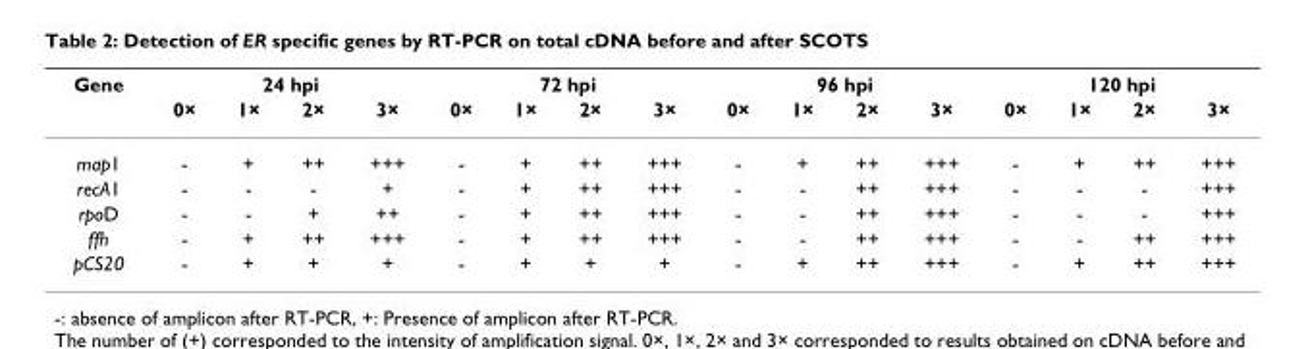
<table><thead><tr><td rowspan="2">Gene</td><td colspan="4">24 hpi</td><td colspan="4">72 hpi</td><td colspan="4">96 hpi</td><td colspan="4">120 hpi</td></tr><tr><td>0×</td><td>1×</td><td>2×</td><td>3×</td><td>0×</td><td>1×</td><td>2×</td><td>3×</td><td>0×</td><td>1×</td><td>2×</td><td>3×</td><td>0×</td><td>1×</td><td>2×</td><td>3×</td></tr></thead><tbody><tr><td>map1</td><td>-</td><td>+</td><td>++</td><td>+++</td><td>-</td><td>+</td><td>++</td><td>+++</td><td>-</td><td>+</td><td>++</td><td>+++</td><td>-</td><td>+</td><td>++</td><td>+++</td></tr><tr><td>recA1</td><td>-</td><td>-</td><td>-</td><td>+</td><td>-</td><td>+</td><td>++</td><td>+++</td><td>-</td><td>-</td><td>++</td><td>+++</td><td>-</td><td>-</td><td>-</td><td>+++</td></tr><tr><td>rpoD</td><td>-</td><td>-</td><td>+</td><td>++</td><td>-</td><td>+</td><td>++</td><td>+++</td><td>-</td><td>-</td><td>++</td><td>+++</td><td>-</td><td>-</td><td>-</td><td>+++</td></tr><tr><td>ffh</td><td>-</td><td>+</td><td>++</td><td>+++</td><td>-</td><td>+</td><td>++</td><td>+++</td><td>-</td><td>-</td><td>++</td><td>+++</td><td>-</td><td>-</td><td>++</td><td>+++</td></tr><tr><td>pCS20</td><td>-</td><td>+</td><td>+</td><td>+</td><td>-</td><td>+</td><td>+</td><td>+</td><td>-</td><td>+</td><td>++</td><td>+++</td><td>-</td><td>+</td><td>++</td><td>+++</td></tr></tbody></table>